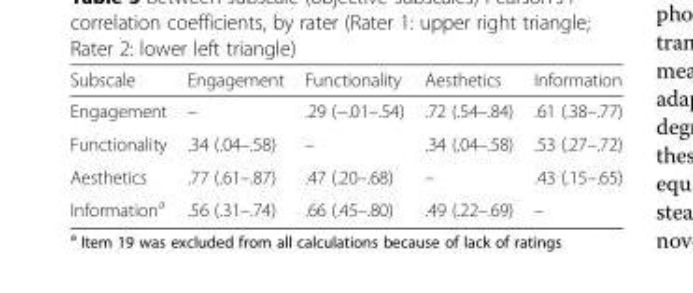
<table><thead><tr><td>Subscale</td><td>Engagement</td><td>Functionality</td><td>Aesthetics</td><td>Information</td></tr></thead><tbody><tr><td>Engagement</td><td>–</td><td>.29 (−.01–.54)</td><td>.72 (.54–.84)</td><td>.61 (.38–.77)</td></tr><tr><td>Functionality</td><td>.34 (.04–.58)</td><td>–</td><td>.34 (.04–.58)</td><td>.53 (.27–.72)</td></tr><tr><td>Aesthetics</td><td>.77 (.61–.87)</td><td>.47 (.20–.68)</td><td>–</td><td>.43 (.15–.65)</td></tr><tr><td>Information<sup>a</sup></td><td>.56 (.31–.74)</td><td>.66 (.45–.80)</td><td>.49 (.22–.69)</td><td>–</td></tr></tbody></table>